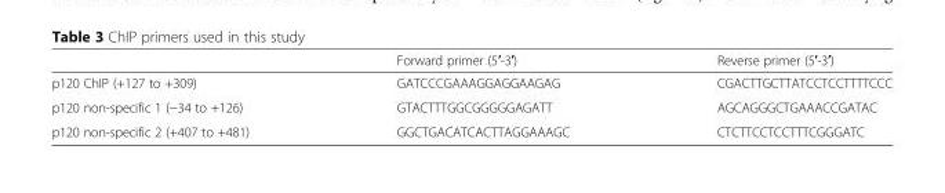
<table><thead><tr><td></td><td>Forward primer (5′-3′)</td><td>Reverse primer (5′-3′)</td></tr></thead><tbody><tr><td>p120 ChIP (+127 to +309)</td><td>GATCCCGAAAGGAGGAAGAG</td><td>CGACTTGCTTATCCTCCTTTTCCC</td></tr><tr><td>p120 non-specific 1 (−34 to +126)</td><td>GTACTTTGGCGGGGGAGATT</td><td>AGCAGGGCTGAAACCGATAC</td></tr><tr><td>p120 non-specific 2 (+407 to +481)</td><td>GGCTGACATCACTTAGGAAAGC</td><td>CTCTTCCTCCTTTCGGGATC</td></tr></tbody></table>